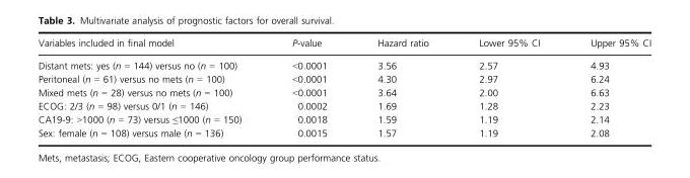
<table><thead><tr><td>Variables included in final model</td><td>P-value</td><td>Hazard ratio</td><td>Lower 95% CI</td><td>Upper 95% CI</td></tr></thead><tbody><tr><td>Distant mets: yes (n = 144) versus no (n = 100)</td><td>&lt;0.0001</td><td>3.56</td><td>2.57</td><td>4.93</td></tr><tr><td>Peritoneal (n = 61) versus no mets (n = 100)</td><td>&lt;0.0001</td><td>4.30</td><td>2.97</td><td>6.24</td></tr><tr><td>Mixed mets (n = 28) versus no mets (n = 100)</td><td>&lt;0.0001</td><td>3.64</td><td>2.00</td><td>6.63</td></tr><tr><td>ECOG: 2/3 (n = 98) versus 0/1 (n = 146)</td><td>0.0002</td><td>1.69</td><td>1.28</td><td>2.23</td></tr><tr><td>CA19-9: &gt;1000 (n = 73) versus ≤1000 (n = 150)</td><td>0.0018</td><td>1.59</td><td>1.19</td><td>2.14</td></tr><tr><td>Sex: female (n = 108) versus male (n = 136)</td><td>0.0015</td><td>1.57</td><td>1.19</td><td>2.08</td></tr></tbody></table>